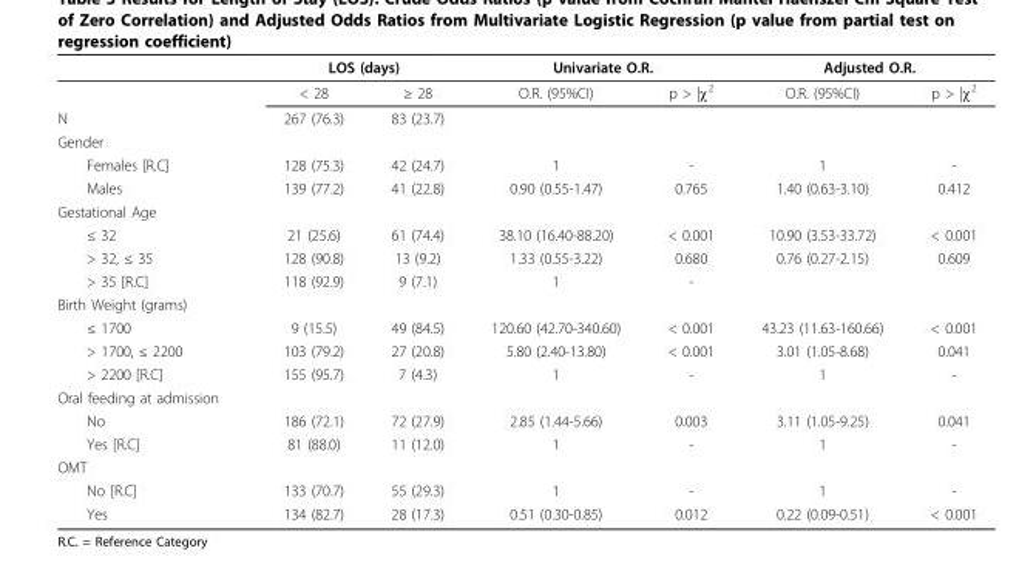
<table><thead><tr><td rowspan="2"></td><td colspan="2">LOS (days)</td><td colspan="2">Univariate O.R.</td><td colspan="2">Adjusted O.R.</td></tr><tr><td>&lt; 28</td><td>≥ 28</td><td>O.R. (95%CI)</td><td>p &gt; |χ<sup>2</sup></td><td>O.R. (95%CI)</td><td>p &gt; |χ<sup>2</sup></td></tr></thead><tbody><tr><td>N</td><td>267 (76.3)</td><td>83 (23.7)</td><td></td><td></td><td></td><td></td></tr><tr><td colspan="7">Gender</td></tr><tr><td>Females [R.C]</td><td>128 (75.3)</td><td>42 (24.7)</td><td>1</td><td>-</td><td>1</td><td>-</td></tr><tr><td>Males</td><td>139 (77.2)</td><td>41 (22.8)</td><td>0.90 (0.55-1.47)</td><td>0.765</td><td>1.40 (0.63-3.10)</td><td>0.412</td></tr><tr><td colspan="7">Gestational Age</td></tr><tr><td>≤ 32</td><td>21 (25.6)</td><td>61 (74.4)</td><td>38.10 (16.40-88.20)</td><td>&lt; 0.001</td><td>10.90 (3.53-33.72)</td><td>&lt; 0.001</td></tr><tr><td>&gt; 32, ≤ 35</td><td>128 (90.8)</td><td>13 (9.2)</td><td>1.33 (0.55-3.22)</td><td>0.680</td><td>0.76 (0.27-2.15)</td><td>0.609</td></tr><tr><td>&gt; 35 [R.C]</td><td>118 (92.9)</td><td>9 (7.1)</td><td>1</td><td>-</td><td></td><td></td></tr><tr><td colspan="7">Birth Weight (grams)</td></tr><tr><td>≤ 1700</td><td>9 (15.5)</td><td>49 (84.5)</td><td>120.60 (42.70-340.60)</td><td>&lt; 0.001</td><td>43.23 (11.63-160.66)</td><td>&lt; 0.001</td></tr><tr><td>&gt; 1700, ≤ 2200</td><td>103 (79.2)</td><td>27 (20.8)</td><td>5.80 (2.40-13.80)</td><td>&lt; 0.001</td><td>3.01 (1.05-8.68)</td><td>0.041</td></tr><tr><td>&gt; 2200 [R.C]</td><td>155 (95.7)</td><td>7 (4.3)</td><td>1</td><td>-</td><td>1</td><td>-</td></tr><tr><td colspan="7">Oral feeding at admission</td></tr><tr><td>No</td><td>186 (72.1)</td><td>72 (27.9)</td><td>2.85 (1.44-5.66)</td><td>0.003</td><td>3.11 (1.05-9.25)</td><td>0.041</td></tr><tr><td>Yes [R.C]</td><td>81 (88.0)</td><td>11 (12.0)</td><td>1</td><td>-</td><td>1</td><td>-</td></tr><tr><td colspan="7">OMT</td></tr><tr><td>No [R.C]</td><td>133 (70.7)</td><td>55 (29.3)</td><td>1</td><td>-</td><td>1</td><td>-</td></tr><tr><td>Yes</td><td>134 (82.7)</td><td>28 (17.3)</td><td>0.51 (0.30-0.85)</td><td>0.012</td><td>0.22 (0.09-0.51)</td><td>&lt; 0.001</td></tr></tbody></table>